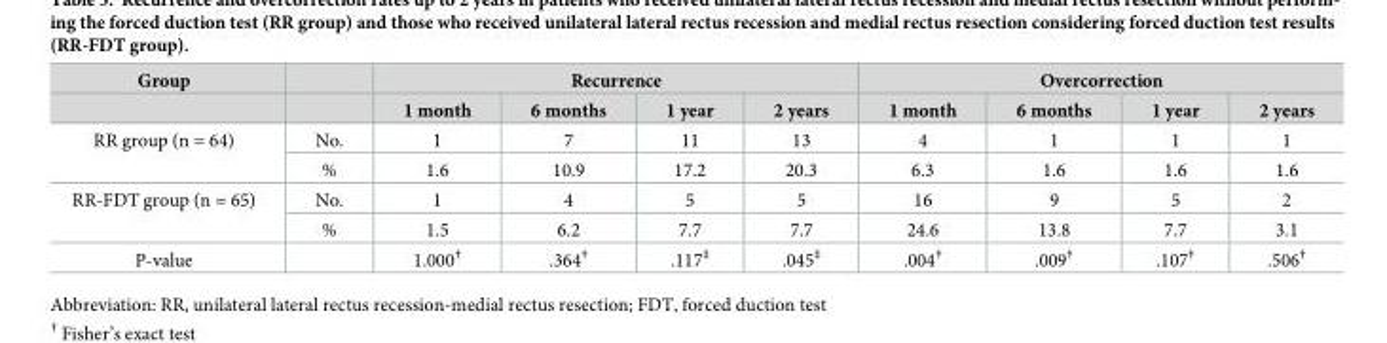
<table><thead><tr><td rowspan="2">Group</td><td rowspan="2"></td><td colspan="4">Recurrence</td><td colspan="4">Overcorrection</td></tr><tr><td>1 month</td><td>6 months</td><td>1 year</td><td>2 years</td><td>1 month</td><td>6 months</td><td>1 year</td><td>2 years</td></tr></thead><tbody><tr><td rowspan="2">RR group (n = 64)</td><td>No.</td><td>1</td><td>7</td><td>11</td><td>13</td><td>4</td><td>1</td><td>1</td><td>1</td></tr><tr><td>%</td><td>1.6</td><td>10.9</td><td>17.2</td><td>20.3</td><td>6.3</td><td>1.6</td><td>1.6</td><td>1.6</td></tr><tr><td rowspan="2">RR-FDT group (n = 65)</td><td>No.</td><td>1</td><td>4</td><td>5</td><td>5</td><td>16</td><td>9</td><td>5</td><td>2</td></tr><tr><td>%</td><td>1.5</td><td>6.2</td><td>7.7</td><td>7.7</td><td>24.6</td><td>13.8</td><td>7.7</td><td>3.1</td></tr><tr><td>P-value</td><td></td><td>1.000<sup>†</sup></td><td>.364<sup>†</sup></td><td>.117<sup>‡</sup></td><td>.045<sup>‡</sup></td><td>.004<sup>†</sup></td><td>.009<sup>†</sup></td><td>.107<sup>†</sup></td><td>.506<sup>†</sup></td></tr></tbody></table>